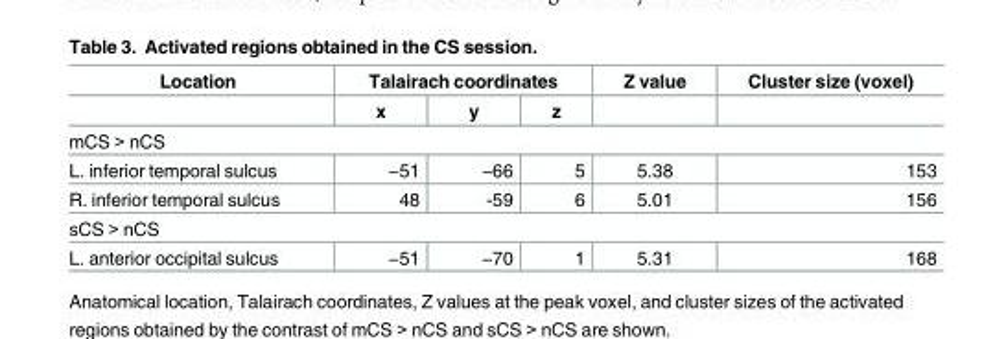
<table><thead><tr><td rowspan="2">Location</td><td colspan="3">Talairach coordinates</td><td rowspan="2">Z value</td><td rowspan="2">Cluster size (voxel)</td></tr><tr><td>x</td><td>y</td><td>z</td></tr></thead><tbody><tr><td colspan="6">mCS &gt; nCS</td></tr><tr><td>L. inferior temporal sulcus</td><td>−51</td><td>−66</td><td>5</td><td>5.38</td><td>153</td></tr><tr><td>R. inferior temporal sulcus</td><td>48</td><td>-59</td><td>6</td><td>5.01</td><td>156</td></tr><tr><td colspan="6">sCS &gt; nCS</td></tr><tr><td>L. anterior occipital sulcus</td><td>−51</td><td>−70</td><td>1</td><td>5.31</td><td>168</td></tr></tbody></table>